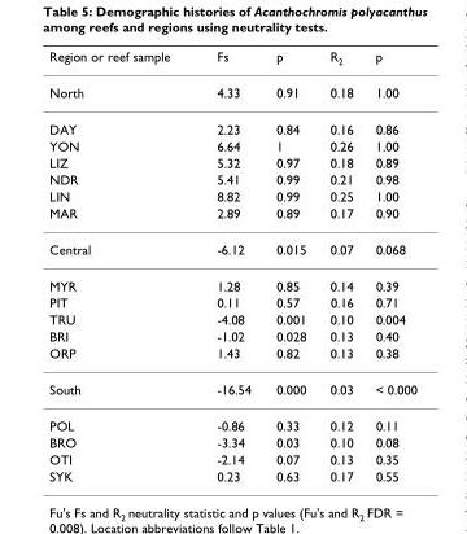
<table><thead><tr><td>Region or reef sample</td><td>Fs</td><td>p</td><td>R<sub>2</sub></td><td>p</td></tr></thead><tbody><tr><td>North</td><td>4.33</td><td>0.91</td><td>0.18</td><td>1.00</td></tr><tr><td>DAY</td><td>2.23</td><td>0.84</td><td>0.16</td><td>0.86</td></tr><tr><td>YON</td><td>6.64</td><td>1</td><td>0.26</td><td>1.00</td></tr><tr><td>LIZ</td><td>5.32</td><td>0.97</td><td>0.18</td><td>0.89</td></tr><tr><td>NDR</td><td>5.41</td><td>0.99</td><td>0.21</td><td>0.98</td></tr><tr><td>LIN</td><td>8.82</td><td>0.99</td><td>0.25</td><td>1.00</td></tr><tr><td>MAR</td><td>2.89</td><td>0.89</td><td>0.17</td><td>0.90</td></tr><tr><td>Central</td><td>-6.12</td><td>0.015</td><td>0.07</td><td>0.068</td></tr><tr><td>MYR</td><td>1.28</td><td>0.85</td><td>0.14</td><td>0.39</td></tr><tr><td>PIT</td><td>0.11</td><td>0.57</td><td>0.16</td><td>0.71</td></tr><tr><td>TRU</td><td>-4.08</td><td>0.001</td><td>0.10</td><td>0.004</td></tr><tr><td>BRI</td><td>-1.02</td><td>0.028</td><td>0.13</td><td>0.40</td></tr><tr><td>ORP</td><td>1.43</td><td>0.82</td><td>0.13</td><td>0.38</td></tr><tr><td>South</td><td>-16.54</td><td>0.000</td><td>0.03</td><td>&lt; 0.000</td></tr><tr><td>POL</td><td>-0.86</td><td>0.33</td><td>0.12</td><td>0.11</td></tr><tr><td>BRO</td><td>-3.34</td><td>0.03</td><td>0.10</td><td>0.08</td></tr><tr><td>OTI</td><td>-2.14</td><td>0.07</td><td>0.13</td><td>0.35</td></tr><tr><td>SYK</td><td>0.23</td><td>0.63</td><td>0.17</td><td>0.55</td></tr></tbody></table>